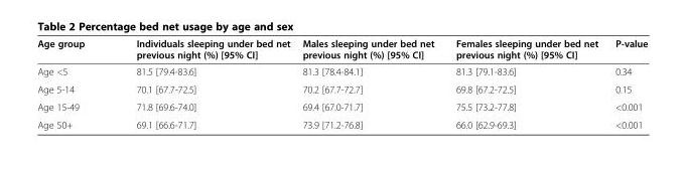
<table><thead><tr><td>Age group</td><td>Individuals sleeping under bed net previous night (%) [95% CI]</td><td>Males sleeping under bed net previous night (%) [95% CI]</td><td>Females sleeping under bed net previous night (%) [95% CI]</td><td>P-value</td></tr></thead><tbody><tr><td>Age &lt;5</td><td>81.5 [79.4-83.6]</td><td>81.3 [78.4-84.1]</td><td>81.3 [79.1-83.6]</td><td>0.34</td></tr><tr><td>Age 5-14</td><td>70.1 [67.7-72.5]</td><td>70.2 [67.7-72.7]</td><td>69.8 [67.2-72.5]</td><td>0.15</td></tr><tr><td>Age 15-49</td><td>71.8 [69.6-74.0]</td><td>69.4 [67.0-71.7]</td><td>75.5 [73.2-77.8]</td><td>&lt;0.001</td></tr><tr><td>Age 50+</td><td>69.1 [66.6-71.7]</td><td>73.9 [71.2-76.8]</td><td>66.0 [62.9-69.3]</td><td>&lt;0.001</td></tr></tbody></table>